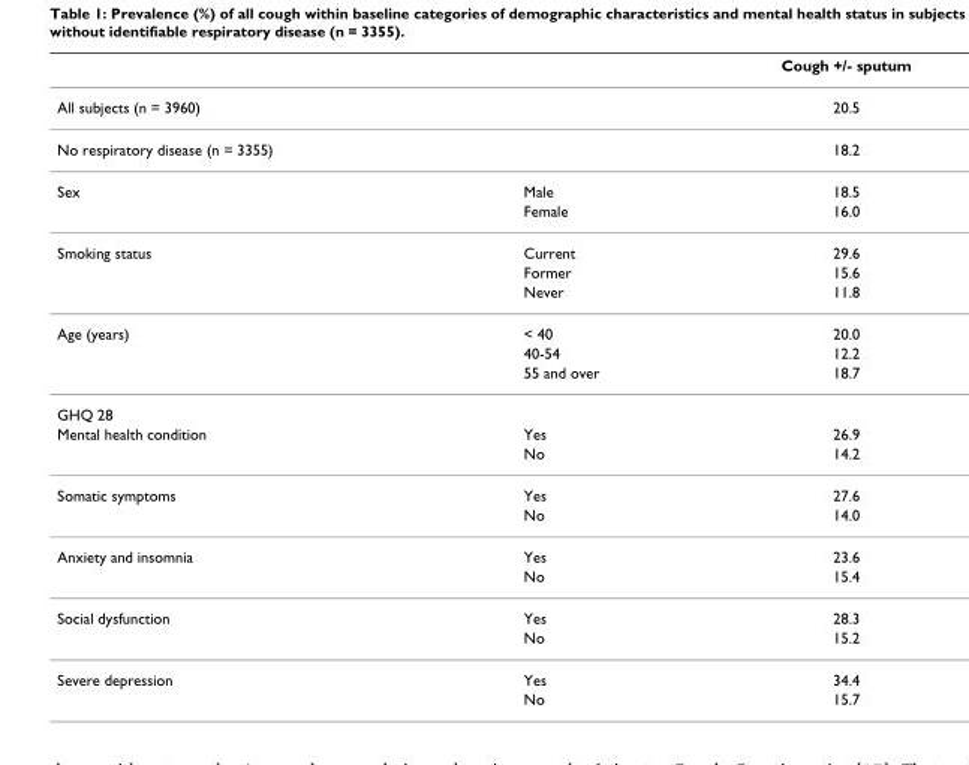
<table><thead><tr><td></td><td></td><td>Cough +/- sputum</td></tr></thead><tbody><tr><td>All subjects (n = 3960)</td><td></td><td>20.5</td></tr><tr><td>No respiratory disease (n = 3355)</td><td></td><td>18.2</td></tr><tr><td rowspan="2">Sex</td><td>Male</td><td>18.5</td></tr><tr><td>Female</td><td>16.0</td></tr><tr><td rowspan="3">Smoking status</td><td>Current</td><td>29.6</td></tr><tr><td>Former</td><td>15.6</td></tr><tr><td>Never</td><td>11.8</td></tr><tr><td rowspan="3">Age (years)</td><td>&lt; 40</td><td>20.0</td></tr><tr><td>40-54</td><td>12.2</td></tr><tr><td>55 and over</td><td>18.7</td></tr><tr><td colspan="3">GHQ 28</td></tr><tr><td rowspan="2">Mental health condition</td><td>Yes</td><td>26.9</td></tr><tr><td>No</td><td>14.2</td></tr><tr><td rowspan="2">Somatic symptoms</td><td>Yes</td><td>27.6</td></tr><tr><td>No</td><td>14.0</td></tr><tr><td rowspan="2">Anxiety and insomnia</td><td>Yes</td><td>23.6</td></tr><tr><td>No</td><td>15.4</td></tr><tr><td rowspan="2">Social dysfunction</td><td>Yes</td><td>28.3</td></tr><tr><td>No</td><td>15.2</td></tr><tr><td rowspan="2">Severe depression</td><td>Yes</td><td>34.4</td></tr><tr><td>No</td><td>15.7</td></tr></tbody></table>